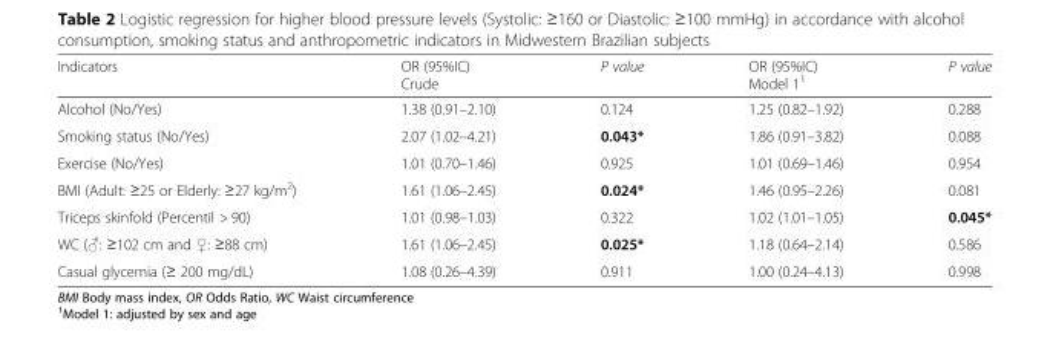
<table><thead><tr><td>Indicators</td><td>OR (95%IC) Crude</td><td>P value</td><td>OR (95%IC) Model 1<sup>1</sup></td><td>P value</td></tr></thead><tbody><tr><td>Alcohol (No/Yes)</td><td>1.38 (0.91–2.10)</td><td>0.124</td><td>1.25 (0.82–1.92)</td><td>0.288</td></tr><tr><td>Smoking status (No/Yes)</td><td>2.07 (1.02–4.21)</td><td>0.043*</td><td>1.86 (0.91–3.82)</td><td>0.088</td></tr><tr><td>Exercise (No/Yes)</td><td>1.01 (0.70–1.46)</td><td>0.925</td><td>1.01 (0.69–1.46)</td><td>0.954</td></tr><tr><td>BMI (Adult: ≥25 or Elderly: ≥27 kg/m<sup>2</sup>)</td><td>1.61 (1.06–2.45)</td><td>0.024*</td><td>1.46 (0.95–2.26)</td><td>0.081</td></tr><tr><td>Triceps skinfold (Percentil &gt; 90)</td><td>1.01 (0.98–1.03)</td><td>0.322</td><td>1.02 (1.01–1.05)</td><td>0.045*</td></tr><tr><td>WC (♂: ≥102 cm and ♀: ≥88 cm)</td><td>1.61 (1.06–2.45)</td><td>0.025*</td><td>1.18 (0.64–2.14)</td><td>0.586</td></tr><tr><td>Casual glycemia (≥ 200 mg/dL)</td><td>1.08 (0.26–4.39)</td><td>0.911</td><td>1.00 (0.24–4.13)</td><td>0.998</td></tr></tbody></table>